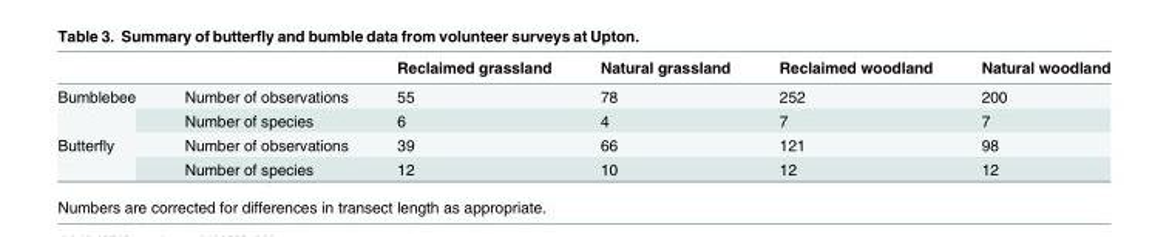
<table><thead><tr><td></td><td></td><td>Reclaimed grassland</td><td>Natural grassland</td><td>Reclaimed woodland</td><td>Natural woodland</td></tr></thead><tbody><tr><td rowspan="2">Bumblebee</td><td>Number of observations</td><td>55</td><td>78</td><td>252</td><td>200</td></tr><tr><td>Number of species</td><td>6</td><td>4</td><td>7</td><td>7</td></tr><tr><td rowspan="2">Butterfly</td><td>Number of observations</td><td>39</td><td>66</td><td>121</td><td>98</td></tr><tr><td>Number of species</td><td>12</td><td>10</td><td>12</td><td>12</td></tr></tbody></table>